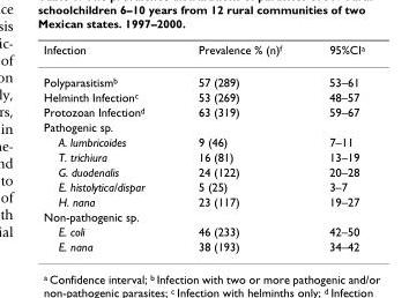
<table><thead><tr><td>Infection</td><td>Prevalence % (n)f</td><td>95%CIa</td></tr></thead><tbody><tr><td>Polyparasitismb</td><td>57 (289)</td><td>53–61</td></tr><tr><td>Helminth Infectionc</td><td>53 (269)</td><td>48–57</td></tr><tr><td>Protozoan Infectiond</td><td>63 (319)</td><td>59–67</td></tr><tr><td colspan="3">Pathogenic sp.</td></tr><tr><td>A. lumbricoides</td><td>9 (46)</td><td>7–11</td></tr><tr><td>T. trichiura</td><td>16 (81)</td><td>13–19</td></tr><tr><td>G. duodenalis</td><td>24 (122)</td><td>20–28</td></tr><tr><td>E. histolytica/dispar</td><td>5 (25)</td><td>3–7</td></tr><tr><td>H. nana</td><td>23 (117)</td><td>19–27</td></tr><tr><td colspan="3">Non-pathogenic sp.</td></tr><tr><td>E. coli</td><td>46 (233)</td><td>42–50</td></tr><tr><td>E. nana</td><td>38 (193)</td><td>34–42</td></tr></tbody></table>